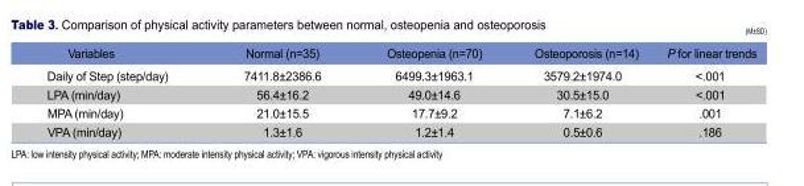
<table><thead><tr><td>Variables</td><td>Normal (n=35)</td><td>Osteopenia (n=70)</td><td>Osteoporosis (n=14)</td><td>P for linear trends</td></tr></thead><tbody><tr><td>Daily of Step (step/day)</td><td>7411.8±2386.6</td><td>6499.3±1963.1</td><td>3579.2±1974.0</td><td>&lt;.001</td></tr><tr><td>LPA (min/day)</td><td>56.4±16.2</td><td>49.0±14.6</td><td>30.5±15.0</td><td>&lt;.001</td></tr><tr><td>MPA (min/day)</td><td>21.0±15.5</td><td>17.7±9.2</td><td>7.1±6.2</td><td>.001</td></tr><tr><td>VPA (min/day)</td><td>1.3±1.6</td><td>1.2±1.4</td><td>0.5±0.6</td><td>.186</td></tr></tbody></table>